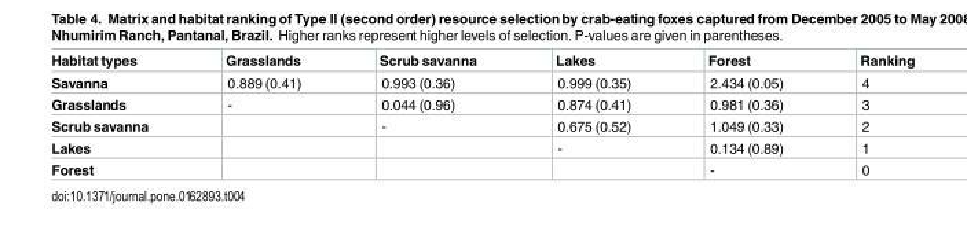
<table><thead><tr><td>Habitat types</td><td>Grasslands</td><td>Scrub savanna</td><td>Lakes</td><td>Forest</td><td>Ranking</td></tr></thead><tbody><tr><td>Savanna</td><td>0.889 (0.41)</td><td>0.993 (0.36)</td><td>0.999 (0.35)</td><td>2.434 (0.05)</td><td>4</td></tr><tr><td>Grasslands</td><td>-</td><td>0.044 (0.96)</td><td>0.874 (0.41)</td><td>0.981 (0.36)</td><td>3</td></tr><tr><td>Scrub savanna</td><td></td><td>-</td><td>0.675 (0.52)</td><td>1.049 (0.33)</td><td>2</td></tr><tr><td>Lakes</td><td></td><td></td><td>-</td><td>0.134 (0.89)</td><td>1</td></tr><tr><td>Forest</td><td></td><td></td><td></td><td>-</td><td>0</td></tr></tbody></table>